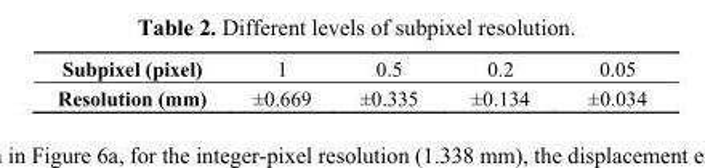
<table><tbody><tr><td>Subpixel (pixel)</td><td>1</td><td>0.5</td><td>0.2</td><td>0.05</td></tr><tr><td>Resolution (mm)</td><td>±0.669</td><td>±0.335</td><td>±0.134</td><td>±0.034</td></tr></tbody></table>